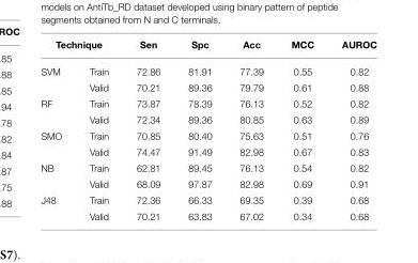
<table><thead><tr><td colspan="2">Technique</td><td rowspan="2">Sen 72.86</td><td rowspan="2">Spc 81.91</td><td rowspan="2">Acc 77.39</td><td rowspan="2">MCC 0.55</td><td rowspan="2">AUROC 0.82</td></tr><tr><td>SVM</td><td>Train</td></tr></thead><tbody><tr><td></td><td>Valid</td><td>70.21</td><td>89.36</td><td>79.79</td><td>0.61</td><td>0.88</td></tr><tr><td rowspan="2">RF</td><td>Train</td><td>73.87</td><td>78.39</td><td>76.13</td><td>0.52</td><td>0.82</td></tr><tr><td>Valid</td><td>72.34</td><td>89.36</td><td>80.85</td><td>0.63</td><td>0.89</td></tr><tr><td rowspan="2">SMO</td><td>Train</td><td>70.85</td><td>80.40</td><td>75.63</td><td>0.51</td><td>0.76</td></tr><tr><td>Valid</td><td>74.47</td><td>91.49</td><td>82.98</td><td>0.67</td><td>0.83</td></tr><tr><td rowspan="2">NB</td><td>Train</td><td>62.81</td><td>89.45</td><td>76.13</td><td>0.54</td><td>0.82</td></tr><tr><td>Valid</td><td>68.09</td><td>97.87</td><td>82.98</td><td>0.69</td><td>0.91</td></tr><tr><td rowspan="2">J48</td><td>Train</td><td>72.36</td><td>66.33</td><td>69.35</td><td>0.39</td><td>0.68</td></tr><tr><td>Valid</td><td>70.21</td><td>63.83</td><td>67.02</td><td>0.34</td><td>0.68</td></tr></tbody></table>